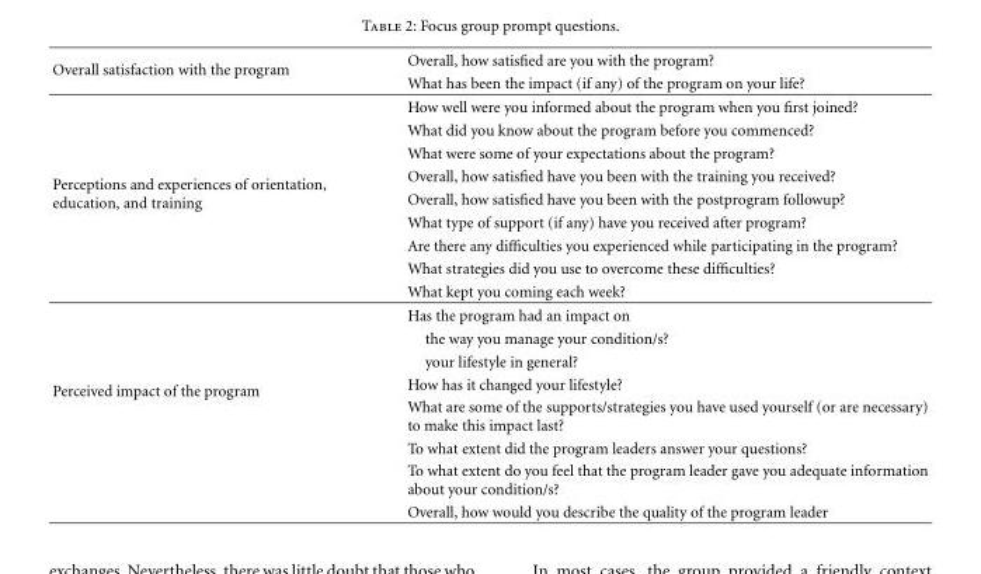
<table><thead><tr><td rowspan="2">Overall satisfaction with the program</td><td rowspan="2">Overall, how satisfied are you with the program? What has been the impact (if any) of the program on your life?</td></tr><tr></tr></thead><tbody><tr><td rowspan="9">Perceptions and experiences of orientation, education, and training</td><td>How well were you informed about the program when you first joined?</td></tr><tr><td>What did you know about the program before you commenced?</td></tr><tr><td>What were some of your expectations about the program?</td></tr><tr><td>Overall, how satisfied have you been with the training you received?</td></tr><tr><td>Overall, how satisfied have you been with the postprogram followup?</td></tr><tr><td>What type of support (if any) have you received after program?</td></tr><tr><td>Are there any difficulties you experienced while participating in the program?</td></tr><tr><td>What strategies did you use to overcome these difficulties?</td></tr><tr><td>What kept you coming each week?</td></tr><tr><td rowspan="8">Perceived impact of the program</td><td>Has the program had an impact on</td></tr><tr><td>the way you manage your condition/s?</td></tr><tr><td>your lifestyle in general?</td></tr><tr><td>How has it changed your lifestyle?</td></tr><tr><td>What are some of the supports/strategies you have used yourself (or are necessary) to make this impact last?</td></tr><tr><td>To what extent did the program leaders answer your questions?</td></tr><tr><td>To what extent do you feel that the program leader gave you adequate information about your condition/s?</td></tr><tr><td>Overall, how would you describe the quality of the program leader</td></tr></tbody></table>